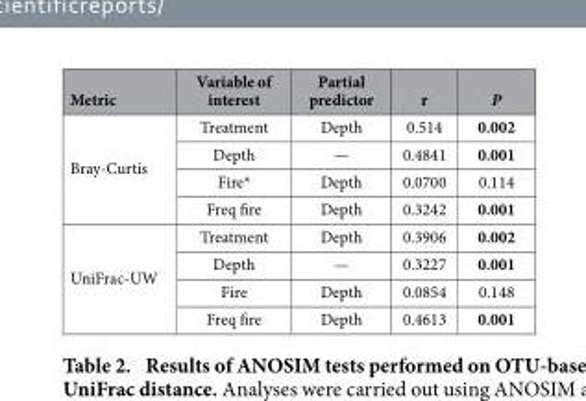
<table><thead><tr><td>Metric</td><td>Variable of interest</td><td>Partial predictor</td><td>r</td><td>P</td></tr></thead><tbody><tr><td rowspan="4">Bray-Curtis</td><td>Treatment</td><td>Depth</td><td>0.514</td><td>0.002</td></tr><tr><td>Depth</td><td>—</td><td>0.4841</td><td>0.001</td></tr><tr><td>Fire*</td><td>Depth</td><td>0.0700</td><td>0.114</td></tr><tr><td>Freq fire</td><td>Depth</td><td>0.3242</td><td>0.001</td></tr><tr><td rowspan="4">UniFrac-UW</td><td>Treatment</td><td>Depth</td><td>0.3906</td><td>0.002</td></tr><tr><td>Depth</td><td>—</td><td>0.3227</td><td>0.001</td></tr><tr><td>Fire</td><td>Depth</td><td>0.0854</td><td>0.148</td></tr><tr><td>Freq fire</td><td>Depth</td><td>0.4613</td><td>0.001</td></tr></tbody></table>